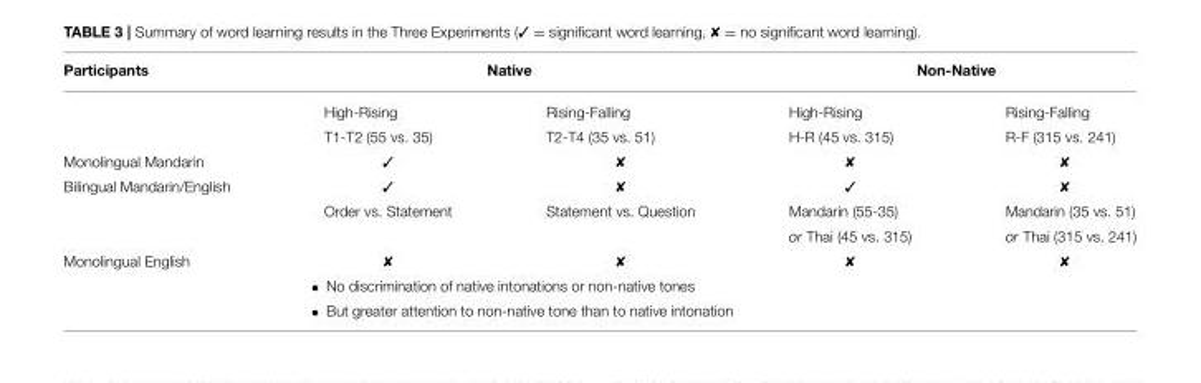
<table><thead><tr><td rowspan="2">Participants</td><td colspan="2">Native</td><td colspan="2">Non-Native</td></tr><tr><td>High-Rising</td><td>Rising-Falling</td><td>High-Rising</td><td>Rising-Falling</td></tr></thead><tbody><tr><td></td><td>T1-T2 (55 vs. 35)</td><td>T2-T4 (35 vs. 51)</td><td>H-R (45 vs. 315)</td><td>R-F (315 vs. 241)</td></tr><tr><td>Monolingual Mandarin</td><td></td><td></td><td></td><td></td></tr><tr><td rowspan="3">Bilingual Mandarin/English</td><td></td><td></td><td></td><td></td></tr><tr><td>Order vs. Statement</td><td>Statement vs. Question</td><td>Mandarin (55-35)</td><td>Mandarin (35 vs. 51)</td></tr><tr><td></td><td></td><td>or Thai (45 vs. 315)</td><td>or Thai (315 vs. 241)</td></tr><tr><td rowspan="3">Monolingual English</td><td></td><td></td><td></td><td></td></tr><tr><td colspan="3">• No discrimination of native intonations or non-native tones</td><td></td></tr><tr><td colspan="3">• But greater attention to non-native tone than to native intonation</td><td></td></tr></tbody></table>